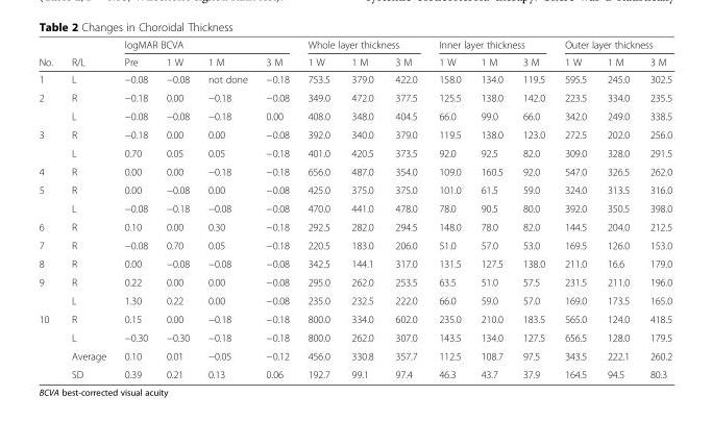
<table><thead><tr><td rowspan="2">No.</td><td rowspan="2">R/L</td><td colspan="4">logMAR BCVA</td><td colspan="3">Whole layer thickness</td><td colspan="3">Inner layer thickness</td><td colspan="3">Outer layer thickness</td></tr><tr><td>Pre</td><td>1 W</td><td>1 M</td><td>3 M</td><td>1 W</td><td>1 M</td><td>3 M</td><td>1 W</td><td>1 M</td><td>3 M</td><td>1 W</td><td>1 M</td><td>3 M</td></tr></thead><tbody><tr><td>1</td><td>L</td><td>−0.08</td><td>−0.08</td><td>not done</td><td>−0.18</td><td>753.5</td><td>379.0</td><td>422.0</td><td>158.0</td><td>134.0</td><td>119.5</td><td>595.5</td><td>245.0</td><td>302.5</td></tr><tr><td rowspan="2">2</td><td>R</td><td>−0.18</td><td>0.00</td><td>−0.18</td><td>−0.08</td><td>349.0</td><td>472.0</td><td>377.5</td><td>125.5</td><td>138.0</td><td>142.0</td><td>223.5</td><td>334.0</td><td>235.5</td></tr><tr><td>L</td><td>−0.08</td><td>−0.08</td><td>−0.18</td><td>0.00</td><td>408.0</td><td>348.0</td><td>404.5</td><td>66.0</td><td>99.0</td><td>66.0</td><td>342.0</td><td>249.0</td><td>338.5</td></tr><tr><td rowspan="2">3</td><td>R</td><td>−0.18</td><td>0.00</td><td>0.00</td><td>−0.08</td><td>392.0</td><td>340.0</td><td>379.0</td><td>119.5</td><td>138.0</td><td>123.0</td><td>272.5</td><td>202.0</td><td>256.0</td></tr><tr><td>L</td><td>0.70</td><td>0.05</td><td>0.05</td><td>−0.18</td><td>401.0</td><td>420.5</td><td>373.5</td><td>92.0</td><td>92.5</td><td>82.0</td><td>309.0</td><td>328.0</td><td>291.5</td></tr><tr><td>4</td><td>R</td><td>0.00</td><td>0.00</td><td>−0.18</td><td>−0.18</td><td>656.0</td><td>487.0</td><td>354.0</td><td>109.0</td><td>160.5</td><td>92.0</td><td>547.0</td><td>326.5</td><td>262.0</td></tr><tr><td rowspan="2">5</td><td>R</td><td>0.00</td><td>−0.08</td><td>0.00</td><td>−0.08</td><td>425.0</td><td>375.0</td><td>375.0</td><td>101.0</td><td>61.5</td><td>59.0</td><td>324.0</td><td>313.5</td><td>316.0</td></tr><tr><td>L</td><td>−0.08</td><td>−0.18</td><td>−0.08</td><td>−0.08</td><td>470.0</td><td>441.0</td><td>478.0</td><td>78.0</td><td>90.5</td><td>80.0</td><td>392.0</td><td>350.5</td><td>398.0</td></tr><tr><td>6</td><td>R</td><td>0.10</td><td>0.00</td><td>0.30</td><td>−0.18</td><td>292.5</td><td>282.0</td><td>294.5</td><td>148.0</td><td>78.0</td><td>82.0</td><td>144.5</td><td>204.0</td><td>212.5</td></tr><tr><td>7</td><td>R</td><td>−0.08</td><td>0.70</td><td>0.05</td><td>−0.18</td><td>220.5</td><td>183.0</td><td>206.0</td><td>51.0</td><td>57.0</td><td>53.0</td><td>169.5</td><td>126.0</td><td>153.0</td></tr><tr><td>8</td><td>R</td><td>0.00</td><td>−0.08</td><td>−0.08</td><td>−0.08</td><td>342.5</td><td>144.1</td><td>317.0</td><td>131.5</td><td>127.5</td><td>138.0</td><td>211.0</td><td>16.6</td><td>179.0</td></tr><tr><td rowspan="2">9</td><td>R</td><td>0.22</td><td>0.00</td><td>0.00</td><td>−0.08</td><td>295.0</td><td>262.0</td><td>253.5</td><td>63.5</td><td>51.0</td><td>57.5</td><td>231.5</td><td>211.0</td><td>196.0</td></tr><tr><td>L</td><td>1.30</td><td>0.22</td><td>0.00</td><td>−0.08</td><td>235.0</td><td>232.5</td><td>222.0</td><td>66.0</td><td>59.0</td><td>57.0</td><td>169.0</td><td>173.5</td><td>165.0</td></tr><tr><td rowspan="4">10</td><td>R</td><td>0.15</td><td>0.00</td><td>−0.18</td><td>−0.18</td><td>800.0</td><td>334.0</td><td>602.0</td><td>235.0</td><td>210.0</td><td>183.5</td><td>565.0</td><td>124.0</td><td>418.5</td></tr><tr><td>L</td><td>−0.30</td><td>−0.30</td><td>−0.18</td><td>−0.18</td><td>800.0</td><td>262.0</td><td>307.0</td><td>143.5</td><td>134.0</td><td>127.5</td><td>656.5</td><td>128.0</td><td>179.5</td></tr><tr><td>Average</td><td>0.10</td><td>0.01</td><td>−0.05</td><td>−0.12</td><td>456.0</td><td>330.8</td><td>357.7</td><td>112.5</td><td>108.7</td><td>97.5</td><td>343.5</td><td>222.1</td><td>260.2</td></tr><tr><td>SD</td><td>0.39</td><td>0.21</td><td>0.13</td><td>0.06</td><td>192.7</td><td>99.1</td><td>97.4</td><td>46.3</td><td>43.7</td><td>37.9</td><td>164.5</td><td>94.5</td><td>80.3</td></tr></tbody></table>